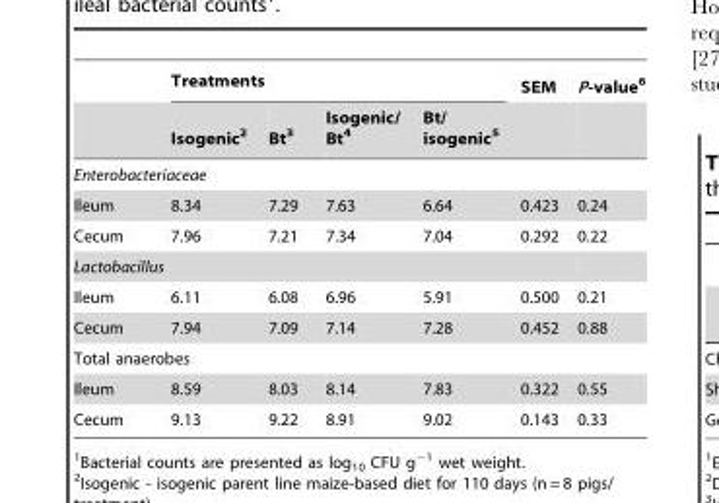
<table><thead><tr><td rowspan="2"></td><td colspan="4">Treatments</td><td rowspan="2">SEM</td><td rowspan="2">P-value<sup>6</sup></td></tr><tr><td>Isogenic<sup>2</sup></td><td>Bt<sup>3</sup></td><td>Isogenic/ Bt<sup>4</sup></td><td>Bt/ isogenic<sup>5</sup></td></tr></thead><tbody><tr><td colspan="7">Enterobacteriaceae</td></tr><tr><td>Ileum</td><td>8.34</td><td>7.29</td><td>7.63</td><td>6.64</td><td>0.423</td><td>0.24</td></tr><tr><td>Cecum</td><td>7.96</td><td>7.21</td><td>7.34</td><td>7.04</td><td>0.292</td><td>0.22</td></tr><tr><td colspan="7">Lactobacillus</td></tr><tr><td>Ileum</td><td>6.11</td><td>6.08</td><td>6.96</td><td>5.91</td><td>0.500</td><td>0.21</td></tr><tr><td>Cecum</td><td>7.94</td><td>7.09</td><td>7.14</td><td>7.28</td><td>0.452</td><td>0.88</td></tr><tr><td colspan="7">Total anaerobes</td></tr><tr><td>Ileum</td><td>8.59</td><td>8.03</td><td>8.14</td><td>7.83</td><td>0.322</td><td>0.55</td></tr><tr><td>Cecum</td><td>9.13</td><td>9.22</td><td>8.91</td><td>9.02</td><td>0.143</td><td>0.33</td></tr></tbody></table>